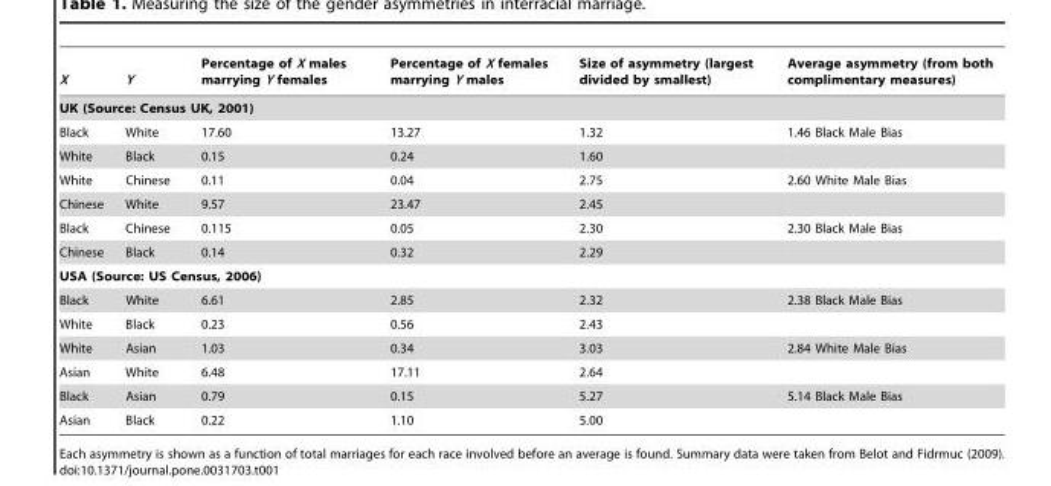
<table><thead><tr><td>X</td><td>Y</td><td>Percentage of X males marrying Y females</td><td>Percentage of X females marrying Y males</td><td>Size of asymmetry (largest divided by smallest)</td><td>Average asymmetry (from both complimentary measures)</td></tr></thead><tbody><tr><td colspan="6">UK (Source: Census UK, 2001)</td></tr><tr><td>Black</td><td>White</td><td>17.60</td><td>13.27</td><td>1.32</td><td>1.46 Black Male Bias</td></tr><tr><td>White</td><td>Black</td><td>0.15</td><td>0.24</td><td>1.60</td><td></td></tr><tr><td>White</td><td>Chinese</td><td>0.11</td><td>0.04</td><td>2.75</td><td>2.60 White Male Bias</td></tr><tr><td>Chinese</td><td>White</td><td>9.57</td><td>23.47</td><td>2.45</td><td></td></tr><tr><td>Black</td><td>Chinese</td><td>0.115</td><td>0.05</td><td>2.30</td><td>2.30 Black Male Bias</td></tr><tr><td>Chinese</td><td>Black</td><td>0.14</td><td>0.32</td><td>2.29</td><td></td></tr><tr><td colspan="6">USA (Source: US Census, 2006)</td></tr><tr><td>Black</td><td>White</td><td>6.61</td><td>2.85</td><td>2.32</td><td>2.38 Black Male Bias</td></tr><tr><td>White</td><td>Black</td><td>0.23</td><td>0.56</td><td>2.43</td><td></td></tr><tr><td>White</td><td>Asian</td><td>1.03</td><td>0.34</td><td>3.03</td><td>2.84 White Male Bias</td></tr><tr><td>Asian</td><td>White</td><td>6.48</td><td>17.11</td><td>2.64</td><td></td></tr><tr><td>Black</td><td>Asian</td><td>0.79</td><td>0.15</td><td>5.27</td><td>5.14 Black Male Bias</td></tr><tr><td>Asian</td><td>Black</td><td>0.22</td><td>1.10</td><td>5.00</td><td></td></tr></tbody></table>